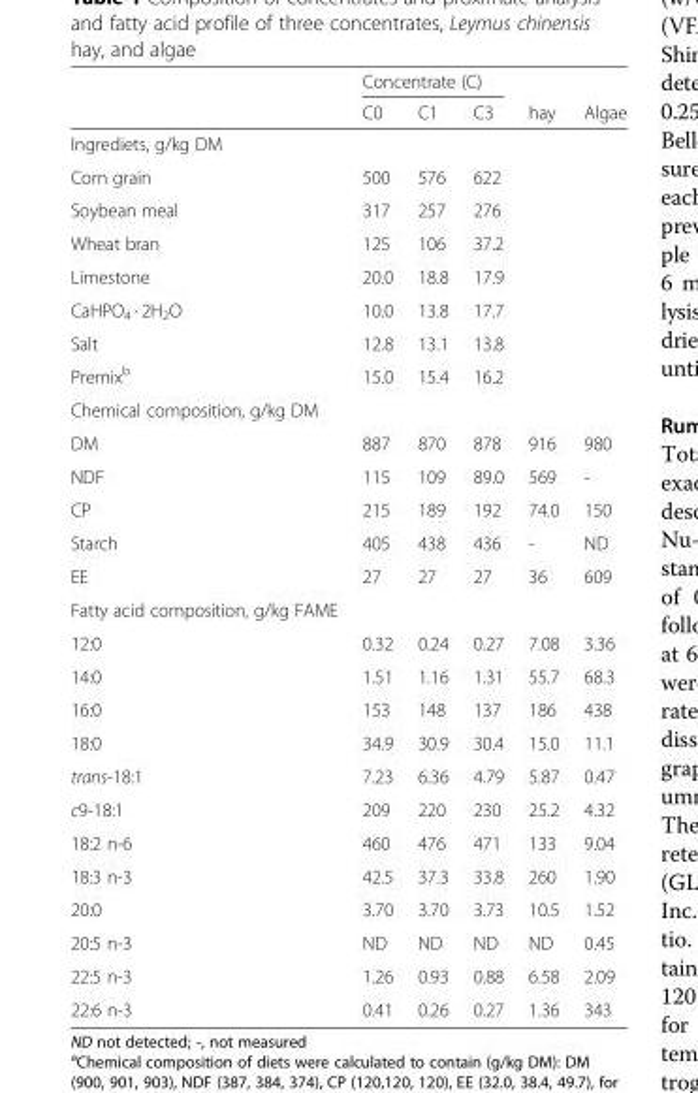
<table><thead><tr><td rowspan="2"></td><td colspan="3">Concentrate (C)</td><td rowspan="2">hay</td><td rowspan="2">Algae</td></tr><tr><td>C0</td><td>C1</td><td>C3</td></tr></thead><tbody><tr><td colspan="6">Ingrediets, g/kg DM</td></tr><tr><td>Corn grain</td><td>500</td><td>576</td><td>622</td><td></td><td></td></tr><tr><td>Soybean meal</td><td>317</td><td>257</td><td>276</td><td></td><td></td></tr><tr><td>Wheat bran</td><td>125</td><td>106</td><td>37.2</td><td></td><td></td></tr><tr><td>Limestone</td><td>20.0</td><td>18.8</td><td>17.9</td><td></td><td></td></tr><tr><td>CaHPO<sub>4</sub> · 2H<sub>2</sub>O</td><td>10.0</td><td>13.8</td><td>17.7</td><td></td><td></td></tr><tr><td>Salt</td><td>12.8</td><td>13.1</td><td>13.8</td><td></td><td></td></tr><tr><td>Premix<sup>b</sup></td><td>15.0</td><td>15.4</td><td>16.2</td><td></td><td></td></tr><tr><td colspan="6">Chemical composition, g/kg DM</td></tr><tr><td>DM</td><td>887</td><td>870</td><td>878</td><td>916</td><td>980</td></tr><tr><td>NDF</td><td>115</td><td>109</td><td>89.0</td><td>569</td><td>-</td></tr><tr><td>CP</td><td>215</td><td>189</td><td>192</td><td>74.0</td><td>150</td></tr><tr><td>Starch</td><td>405</td><td>438</td><td>436</td><td>-</td><td>ND</td></tr><tr><td>EE</td><td>27</td><td>27</td><td>27</td><td>36</td><td>609</td></tr><tr><td colspan="6">Fatty acid composition, g/kg FAME</td></tr><tr><td>12:0</td><td>0.32</td><td>0.24</td><td>0.27</td><td>7.08</td><td>3.36</td></tr><tr><td>14:0</td><td>1.51</td><td>1.16</td><td>1.31</td><td>55.7</td><td>68.3</td></tr><tr><td>16:0</td><td>153</td><td>148</td><td>137</td><td>186</td><td>438</td></tr><tr><td>18:0</td><td>34.9</td><td>30.9</td><td>30.4</td><td>15.0</td><td>11.1</td></tr><tr><td>trans-18:1</td><td>7.23</td><td>6.36</td><td>4.79</td><td>5.87</td><td>0.47</td></tr><tr><td>c9-18:1</td><td>209</td><td>220</td><td>230</td><td>25.2</td><td>4.32</td></tr><tr><td>18:2 n-6</td><td>460</td><td>476</td><td>471</td><td>133</td><td>9.04</td></tr><tr><td>18:3 n-3</td><td>42.5</td><td>37.3</td><td>33.8</td><td>260</td><td>1.90</td></tr><tr><td>20:0</td><td>3.70</td><td>3.70</td><td>3.73</td><td>10.5</td><td>1.52</td></tr><tr><td>20:5 n-3</td><td>ND</td><td>ND</td><td>ND</td><td>ND</td><td>0.45</td></tr><tr><td>22:5 n-3</td><td>1.26</td><td>0.93</td><td>0.88</td><td>6.58</td><td>2.09</td></tr><tr><td>22:6 n-3</td><td>0.41</td><td>0.26</td><td>0.27</td><td>1.36</td><td>343</td></tr></tbody></table>